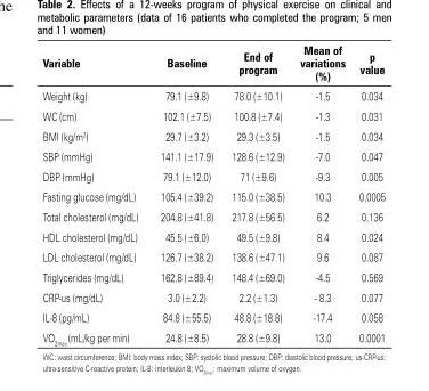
<table><thead><tr><td>Variable</td><td>Baseline</td><td>End of program</td><td>Mean of variations (%)</td><td>p value</td></tr></thead><tbody><tr><td>Weight (kg)</td><td>79.1 (±9.8)</td><td>78.0 (±10.1)</td><td>-1.5</td><td>0.034</td></tr><tr><td>WC (cm)</td><td>102.1 (±7.5)</td><td>100.8 (±7.4)</td><td>-1.3</td><td>0.031</td></tr><tr><td>BMI (kg/m<sup>2</sup>)</td><td>29.7 (±3.2)</td><td>29.3 (±3.5)</td><td>-1.5</td><td>0.034</td></tr><tr><td>SBP (mmHg)</td><td>141.1 (±17.9)</td><td>128.6 (±12.9)</td><td>-7.0</td><td>0.047</td></tr><tr><td>DBP (mmHg)</td><td>79.1 (±12.0)</td><td>71 (±9.6)</td><td>-9.3</td><td>0.005</td></tr><tr><td>Fasting glucose (mg/dL)</td><td>105.4 (±39.2)</td><td>115.0 (±38.5)</td><td>10.3</td><td>0.0005</td></tr><tr><td>Total cholesterol (mg/dL)</td><td>204.8 (±41.8)</td><td>217.8 (±56.5)</td><td>6.2</td><td>0.136</td></tr><tr><td>HDL cholesterol (mg/dL)</td><td>45.5 (±6.0)</td><td>49.5 (±9.8)</td><td>8.4</td><td>0.024</td></tr><tr><td>LDL cholesterol (mg/dL)</td><td>126.7 (±38.2)</td><td>138.6 (±47.1)</td><td>9.6</td><td>0.087</td></tr><tr><td>Triglycerides (mg/dL)</td><td>162.8 (±89.4)</td><td>148.4 (±69.0)</td><td>-4.5</td><td>0.569</td></tr><tr><td>CRP-us (mg/dL)</td><td>3.0 (±2.2)</td><td>2.2 (±1.3)</td><td>- 8.3</td><td>0.077</td></tr><tr><td>IL-8 (pg/mL)</td><td>84.8 (±55.5)</td><td>48.8 (±18.8)</td><td>-17.4</td><td>0.058</td></tr><tr><td>VO<sub>2max</sub> (mL/kg per min)</td><td>24.8 (±8.5)</td><td>28.8 (±9.8)</td><td>13.0</td><td>0.0001</td></tr></tbody></table>